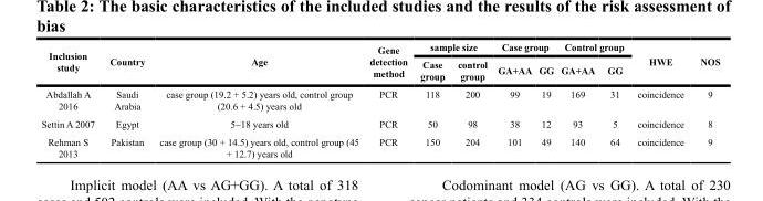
<table><thead><tr><td rowspan="2">Inclusion study</td><td rowspan="2">Country</td><td rowspan="2">Age</td><td rowspan="2">Gene detection method</td><td colspan="2">sample size</td><td colspan="2">Case group</td><td colspan="2">Control group</td><td rowspan="2">HWE</td><td rowspan="2">NOS</td></tr><tr><td>Case group</td><td>control group</td><td>GA+AA</td><td>GG</td><td>GA+AA</td><td>GG</td></tr></thead><tbody><tr><td>Abdallah A 2016</td><td>Saudi Arabia</td><td>case group (19.2 + 5.2) years old, control group (20.6 + 4.5) years old</td><td>PCR</td><td>118</td><td>200</td><td>99</td><td>19</td><td>169</td><td>31</td><td>coincidence</td><td>9</td></tr><tr><td>Settin A 2007</td><td>Egypt</td><td>5~18 years old</td><td>PCR</td><td>50</td><td>98</td><td>38</td><td>12</td><td>93</td><td>5</td><td>coincidence</td><td>8</td></tr><tr><td>Rehman S 2013</td><td>Pakistan</td><td>case group (30 + 14.5) years old, control group (45 + 12.7) years old</td><td>PCR</td><td>150</td><td>204</td><td>101</td><td>49</td><td>140</td><td>64</td><td>coincidence</td><td>9</td></tr></tbody></table>